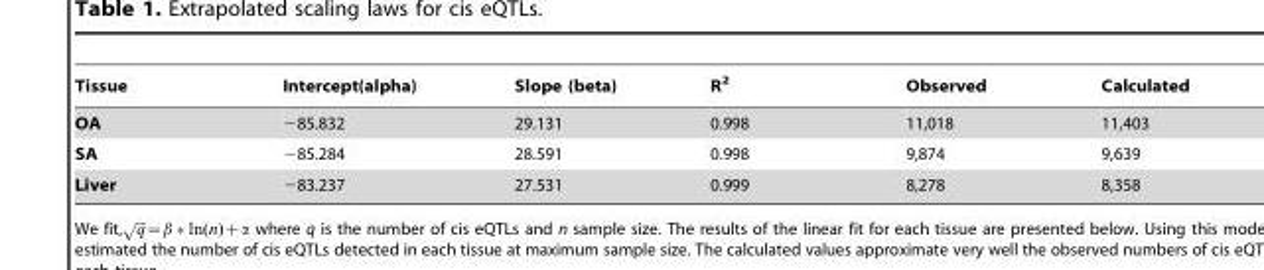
<table><thead><tr><td>Tissue</td><td>Intercept(alpha)</td><td>Slope (beta)</td><td>R<sup>2</sup></td><td>Observed</td><td>Calculated</td></tr></thead><tbody><tr><td>OA</td><td>−85.832</td><td>29.131</td><td>0.998</td><td>11,018</td><td>11,403</td></tr><tr><td>SA</td><td>−85.284</td><td>28.591</td><td>0.998</td><td>9,874</td><td>9,639</td></tr><tr><td>Liver</td><td>−83.237</td><td>27.531</td><td>0.999</td><td>8,278</td><td>8,358</td></tr></tbody></table>